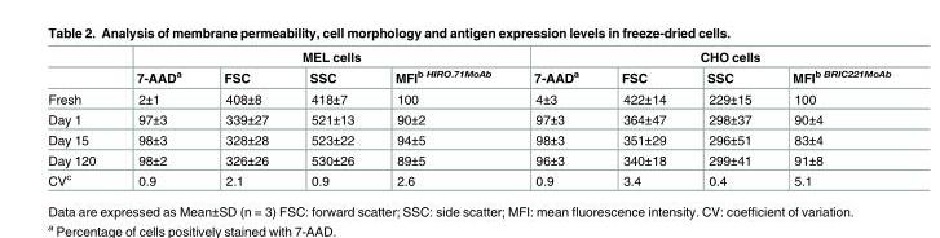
<table><thead><tr><td rowspan="2"></td><td colspan="4">MEL cells</td><td colspan="4">CHO cells</td></tr><tr><td>7-AAD<sup>a</sup></td><td>FSC</td><td>SSC</td><td>MFI<sup>b HIRO.71MoAb</sup></td><td>7-AAD<sup>a</sup></td><td>FSC</td><td>SSC</td><td>MFI<sup>b BRIC221MoAb</sup></td></tr></thead><tbody><tr><td>Fresh</td><td>2±1</td><td>408±8</td><td>418±7</td><td>100</td><td>4±3</td><td>422±14</td><td>229±15</td><td>100</td></tr><tr><td>Day 1</td><td>97±3</td><td>339±27</td><td>521±13</td><td>90±2</td><td>97±3</td><td>364±47</td><td>298±37</td><td>90±4</td></tr><tr><td>Day 15</td><td>98±3</td><td>328±28</td><td>523±22</td><td>94±5</td><td>98±3</td><td>351±29</td><td>296±51</td><td>83±4</td></tr><tr><td>Day 120</td><td>98±2</td><td>326±26</td><td>530±26</td><td>89±5</td><td>96±3</td><td>340±18</td><td>299±41</td><td>91±8</td></tr><tr><td>CV<sup>c</sup></td><td>0.9</td><td>2.1</td><td>0.9</td><td>2.6</td><td>0.9</td><td>3.4</td><td>0.4</td><td>5.1</td></tr></tbody></table>